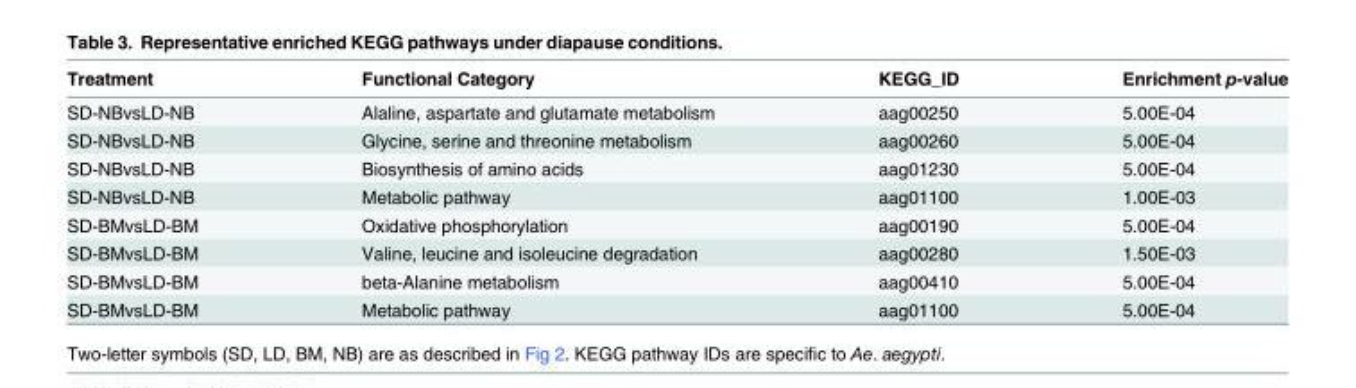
<table><thead><tr><td>Treatment</td><td>Functional Category</td><td>KEGG_ID</td><td>Enrichment p-value</td></tr></thead><tbody><tr><td>SD-NBvsLD-NB</td><td>Alaline, aspartate and glutamate metabolism</td><td>aag00250</td><td>5.00E-04</td></tr><tr><td>SD-NBvsLD-NB</td><td>Glycine, serine and threonine metabolism</td><td>aag00260</td><td>5.00E-04</td></tr><tr><td>SD-NBvsLD-NB</td><td>Biosynthesis of amino acids</td><td>aag01230</td><td>5.00E-04</td></tr><tr><td>SD-NBvsLD-NB</td><td>Metabolic pathway</td><td>aag01100</td><td>1.00E-03</td></tr><tr><td>SD-BMvsLD-BM</td><td>Oxidative phosphorylation</td><td>aag00190</td><td>5.00E-04</td></tr><tr><td>SD-BMvsLD-BM</td><td>Valine, leucine and isoleucine degradation</td><td>aag00280</td><td>1.50E-03</td></tr><tr><td>SD-BMvsLD-BM</td><td>beta-Alanine metabolism</td><td>aag00410</td><td>5.00E-04</td></tr><tr><td>SD-BMvsLD-BM</td><td>Metabolic pathway</td><td>aag01100</td><td>5.00E-04</td></tr></tbody></table>